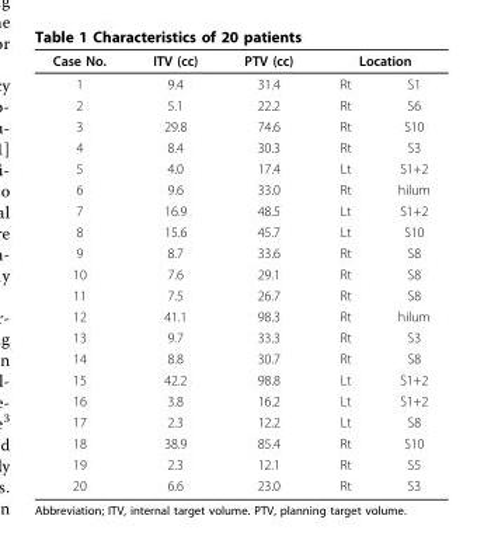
<table><thead><tr><td rowspan="2">Case No. 1</td><td rowspan="2">ITV (cc) 9.4</td><td rowspan="2">PTV (cc) 31.4</td><td colspan="2">Location</td></tr><tr><td>Rt</td><td>S1</td></tr></thead><tbody><tr><td>2</td><td>5.1</td><td>22.2</td><td>Rt</td><td>S6</td></tr><tr><td>3</td><td>29.8</td><td>74.6</td><td>Rt</td><td>S10</td></tr><tr><td>4</td><td>8.4</td><td>30.3</td><td>Rt</td><td>S3</td></tr><tr><td>5</td><td>4.0</td><td>17.4</td><td>Lt</td><td>S1+2</td></tr><tr><td>6</td><td>9.6</td><td>33.0</td><td>Rt</td><td>hilum</td></tr><tr><td>7</td><td>16.9</td><td>48.5</td><td>Lt</td><td>S1+2</td></tr><tr><td>8</td><td>15.6</td><td>45.7</td><td>Lt</td><td>S10</td></tr><tr><td>9</td><td>8.7</td><td>33.6</td><td>Rt</td><td>S8</td></tr><tr><td>10</td><td>7.6</td><td>29.1</td><td>Rt</td><td>S8</td></tr><tr><td>11</td><td>7.5</td><td>26.7</td><td>Rt</td><td>S8</td></tr><tr><td>12</td><td>41.1</td><td>98.3</td><td>Rt</td><td>hilum</td></tr><tr><td>13</td><td>9.7</td><td>33.3</td><td>Rt</td><td>S3</td></tr><tr><td>14</td><td>8.8</td><td>30.7</td><td>Rt</td><td>S8</td></tr><tr><td>15</td><td>42.2</td><td>98.8</td><td>Lt</td><td>S1+2</td></tr><tr><td>16</td><td>3.8</td><td>16.2</td><td>Lt</td><td>S1+2</td></tr><tr><td>17</td><td>2.3</td><td>12.2</td><td>Lt</td><td>S8</td></tr><tr><td>18</td><td>38.9</td><td>85.4</td><td>Rt</td><td>S10</td></tr><tr><td>19</td><td>2.3</td><td>12.1</td><td>Rt</td><td>S5</td></tr><tr><td>20</td><td>6.6</td><td>23.0</td><td>Rt</td><td>S3</td></tr></tbody></table>